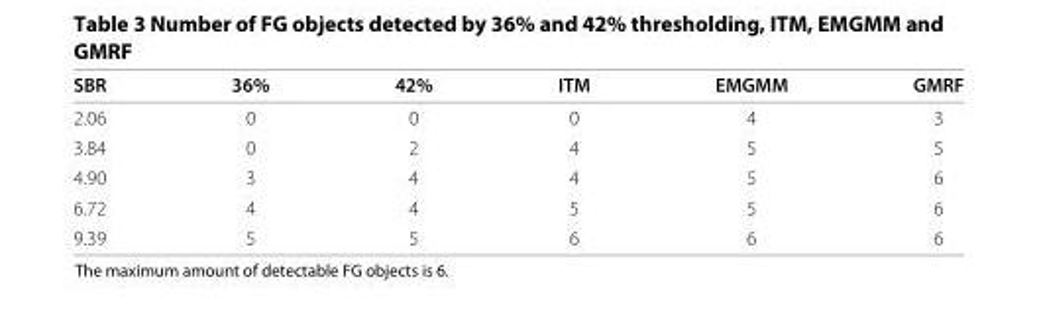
<table><thead><tr><td>SBR</td><td>36%</td><td>42%</td><td>ITM</td><td>EMGMM</td><td>GMRF</td></tr></thead><tbody><tr><td>2.06</td><td>0</td><td>0</td><td>0</td><td>4</td><td>3</td></tr><tr><td>3.84</td><td>0</td><td>2</td><td>4</td><td>5</td><td>5</td></tr><tr><td>4.90</td><td>3</td><td>4</td><td>4</td><td>5</td><td>6</td></tr><tr><td>6.72</td><td>4</td><td>4</td><td>5</td><td>5</td><td>6</td></tr><tr><td>9.39</td><td>5</td><td>5</td><td>6</td><td>6</td><td>6</td></tr></tbody></table>